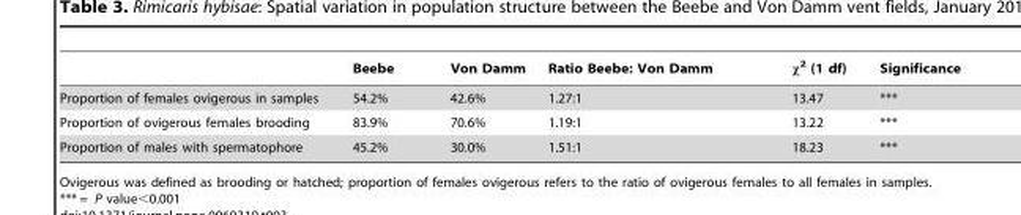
<table><thead><tr><td></td><td>Beebe</td><td>Von Damm</td><td>Ratio Beebe: Von Damm</td><td>χ<sup>2</sup> (1 df)</td><td>Significance</td></tr></thead><tbody><tr><td>Proportion of females ovigerous in samples</td><td>54.2%</td><td>42.6%</td><td>1.27:1</td><td>13.47</td><td>***</td></tr><tr><td>Proportion of ovigerous females brooding</td><td>83.9%</td><td>70.6%</td><td>1.19:1</td><td>13.22</td><td>***</td></tr><tr><td>Proportion of males with spermatophore</td><td>45.2%</td><td>30.0%</td><td>1.51:1</td><td>18.23</td><td>***</td></tr></tbody></table>